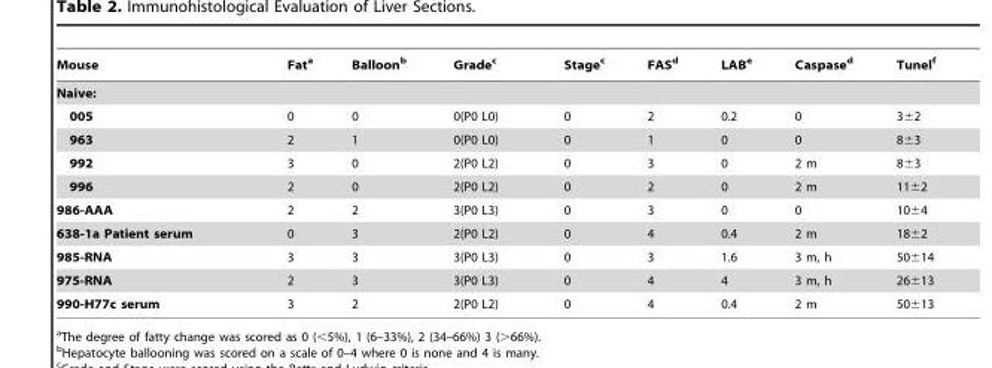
<table><thead><tr><td>Mouse</td><td>Fat<sup>a</sup></td><td>Balloon<sup>b</sup></td><td>Grade<sup>c</sup></td><td>Stage<sup>c</sup></td><td>FAS<sup>d</sup></td><td>LAB<sup>e</sup></td><td>Caspase<sup>d</sup></td><td>Tunel<sup>f</sup></td></tr></thead><tbody><tr><td colspan="9">Naive:</td></tr><tr><td>005</td><td>0</td><td>0</td><td>0(P0 L0)</td><td>0</td><td>2</td><td>0.2</td><td>0</td><td>3±2</td></tr><tr><td>963</td><td>2</td><td>1</td><td>0(P0 L0)</td><td>0</td><td>1</td><td>0</td><td>0</td><td>8±3</td></tr><tr><td>992</td><td>3</td><td>0</td><td>2(P0 L2)</td><td>0</td><td>3</td><td>0</td><td>2 m</td><td>8±3</td></tr><tr><td>996</td><td>2</td><td>0</td><td>2(P0 L2)</td><td>0</td><td>2</td><td>0</td><td>2 m</td><td>11±2</td></tr><tr><td>986-AAA</td><td>2</td><td>2</td><td>3(P0 L3)</td><td>0</td><td>3</td><td>0</td><td>0</td><td>10±4</td></tr><tr><td>638-1a Patient serum</td><td>0</td><td>3</td><td>2(P0 L2)</td><td>0</td><td>4</td><td>0.4</td><td>2 m</td><td>18±2</td></tr><tr><td>985-RNA</td><td>3</td><td>3</td><td>3(P0 L3)</td><td>0</td><td>3</td><td>1.6</td><td>3 m, h</td><td>50±14</td></tr><tr><td>975-RNA</td><td>2</td><td>3</td><td>3(P0 L3)</td><td>0</td><td>4</td><td>4</td><td>3 m, h</td><td>26±13</td></tr><tr><td>990-H77c serum</td><td>3</td><td>2</td><td>2(P0 L2)</td><td>0</td><td>4</td><td>0.4</td><td>2 m</td><td>50±13</td></tr></tbody></table>